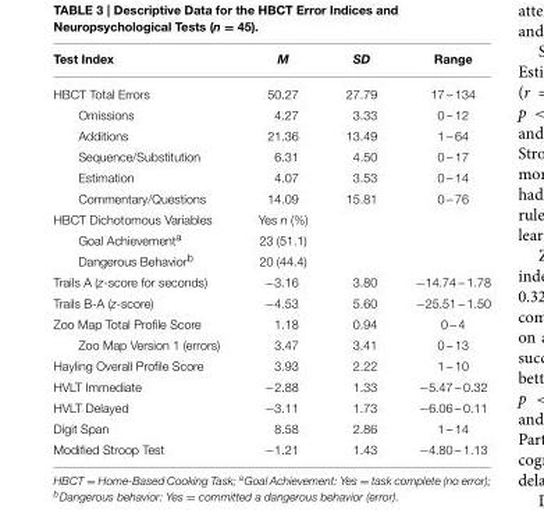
<table><thead><tr><td>Test Index</td><td>M</td><td>SD</td><td>Range</td></tr></thead><tbody><tr><td>HBCT Total Errors</td><td>50.27</td><td>27.79</td><td>17 – 134</td></tr><tr><td>Omissions</td><td>4.27</td><td>3.33</td><td>0 – 12</td></tr><tr><td>Additions</td><td>21.36</td><td>13.49</td><td>1 – 64</td></tr><tr><td>Sequence/Substitution</td><td>6.31</td><td>4.50</td><td>0 – 17</td></tr><tr><td>Estimation</td><td>4.07</td><td>3.53</td><td>0 – 14</td></tr><tr><td>Commentary/Questions</td><td>14.09</td><td>15.81</td><td>0 – 76</td></tr><tr><td>HBCT Dichotomous Variables</td><td>Yes n (%)</td><td></td><td></td></tr><tr><td>Goal Achievement<sup>a</sup></td><td>23 (51.1)</td><td></td><td></td></tr><tr><td>Dangerous Behavior<sup>b</sup></td><td>20 (44.4)</td><td></td><td></td></tr><tr><td>Trails A (z-score for seconds)</td><td>−3.16</td><td>3.80</td><td>−14.74 – 1.78</td></tr><tr><td>Trails B-A (z-score)</td><td>−4.53</td><td>5.60</td><td>−25.51 – 1.50</td></tr><tr><td>Zoo Map Total Profile Score</td><td>1.18</td><td>0.94</td><td>0 – 4</td></tr><tr><td>Zoo Map Version 1 (errors)</td><td>3.47</td><td>3.41</td><td>0 – 13</td></tr><tr><td>Hayling Overall Profile Score</td><td>3.93</td><td>2.22</td><td>1 – 10</td></tr><tr><td>HVLT Immediate</td><td>−2.88</td><td>1.33</td><td>−5.47 – 0.32</td></tr><tr><td>HVLT Delayed</td><td>−3.11</td><td>1.73</td><td>−6.06 – 0.11</td></tr><tr><td>Digit Span</td><td>8.58</td><td>2.86</td><td>1 – 14</td></tr><tr><td>Modified Stroop Test</td><td>−1.21</td><td>1.43</td><td>−4.80 – 1.13</td></tr></tbody></table>